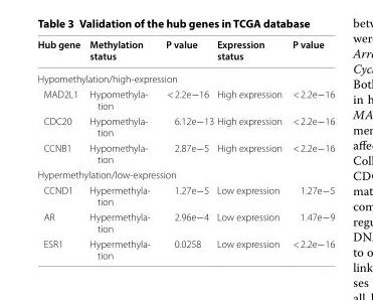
<table><thead><tr><td>Hub gene</td><td>Methylation status</td><td>P value</td><td>Expression status</td><td>P value</td></tr></thead><tbody><tr><td colspan="5">Hypomethylation/high-expression</td></tr><tr><td>MAD2L1</td><td>Hypomethyla- tion</td><td>&lt; 2.2e−16</td><td>High expression</td><td>&lt; 2.2e−16</td></tr><tr><td>CDC20</td><td>Hypomethyla- tion</td><td>6.12e−13</td><td>High expression</td><td>&lt; 2.2e−16</td></tr><tr><td>CCNB1</td><td>Hypomethyla- tion</td><td>2.87e−5</td><td>High expression</td><td>&lt; 2.2e−16</td></tr><tr><td colspan="5">Hypermethylation/low-expression</td></tr><tr><td>CCND1</td><td>Hypermethyla- tion</td><td>1.27e−5</td><td>Low expression</td><td>1.27e−5</td></tr><tr><td>AR</td><td>Hypermethyla- tion</td><td>2.96e−4</td><td>Low expression</td><td>1.47e−9</td></tr><tr><td>ESR1</td><td>Hypermethyla- tion</td><td>0.0258</td><td>Low expression</td><td>&lt; 2.2e−16</td></tr></tbody></table>